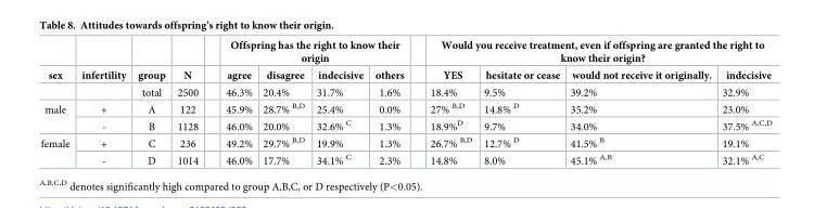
<table><thead><tr><td rowspan="2">sex</td><td rowspan="2">infertility</td><td rowspan="2">group</td><td rowspan="2">N</td><td colspan="4">Offspring has the right to know their origin</td><td colspan="4">Would you receive treatment, even if offspring are granted the right to know their origin?</td></tr><tr><td>agree</td><td>disagree</td><td>indecisive</td><td>others</td><td>YES</td><td>hesitate or cease</td><td>would not receive it originally.</td><td>indecisive</td></tr></thead><tbody><tr><td></td><td></td><td>total</td><td>2500</td><td>46.3%</td><td>20.4%</td><td>31.7%</td><td>1.6%</td><td>18.4%</td><td>9.5%</td><td>39.2%</td><td>32.9%</td></tr><tr><td rowspan="2">male</td><td>+</td><td>A</td><td>122</td><td>45.9%</td><td>28.7% <sup>B,D</sup></td><td>25.4%</td><td>0.0%</td><td>27% <sup>B,D</sup></td><td>14.8% <sup>D</sup></td><td>35.2%</td><td>23.0%</td></tr><tr><td>-</td><td>B</td><td>1128</td><td>46.0%</td><td>20.0%</td><td>32.6% <sup>C</sup></td><td>1.3%</td><td>18.9%<sup>D</sup></td><td>9.7%</td><td>34.0%</td><td>37.5% <sup>A,C,D</sup></td></tr><tr><td rowspan="2">female</td><td>+</td><td>C</td><td>236</td><td>49.2%</td><td>29.7% <sup>B,D</sup></td><td>19.9%</td><td>1.3%</td><td>26.7% <sup>B,D</sup></td><td>12.7% <sup>D</sup></td><td>41.5% <sup>B</sup></td><td>19.1%</td></tr><tr><td>-</td><td>D</td><td>1014</td><td>46.0%</td><td>17.7%</td><td>34.1% <sup>C</sup></td><td>2.3%</td><td>14.8%</td><td>8.0%</td><td>45.1% <sup>A,B</sup></td><td>32.1% <sup>A,C</sup></td></tr></tbody></table>